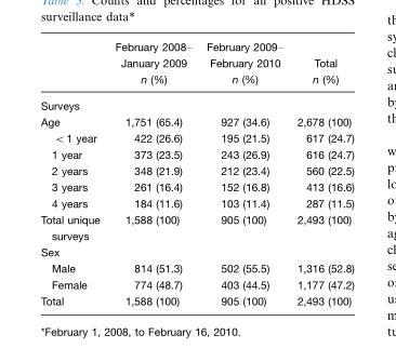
<table><thead><tr><td></td><td>February 2008– January 2009 n (%)</td><td>February 2009– February 2010 n (%)</td><td>Total n (%)</td></tr></thead><tbody><tr><td colspan="4">Surveys</td></tr><tr><td>Age</td><td>1,751 (65.4)</td><td>927 (34.6)</td><td>2,678 (100)</td></tr><tr><td>&lt;1 year</td><td>422 (26.6)</td><td>195 (21.5)</td><td>617 (24.7)</td></tr><tr><td>1 year</td><td>373 (23.5)</td><td>243 (26.9)</td><td>616 (24.7)</td></tr><tr><td>2 years</td><td>348 (21.9)</td><td>212 (23.4)</td><td>560 (22.5)</td></tr><tr><td>3 years</td><td>261 (16.4)</td><td>152 (16.8)</td><td>413 (16.6)</td></tr><tr><td>4 years</td><td>184 (11.6)</td><td>103 (11.4)</td><td>287 (11.5)</td></tr><tr><td>Total unique surveys</td><td>1,588 (100)</td><td>905 (100)</td><td>2,493 (100)</td></tr><tr><td colspan="4">Sex</td></tr><tr><td>Male</td><td>814 (51.3)</td><td>502 (55.5)</td><td>1,316 (52.8)</td></tr><tr><td>Female</td><td>774 (48.7)</td><td>403 (44.5)</td><td>1,177 (47.2)</td></tr><tr><td>Total</td><td>1,588 (100)</td><td>905 (100)</td><td>2,493 (100)</td></tr></tbody></table>